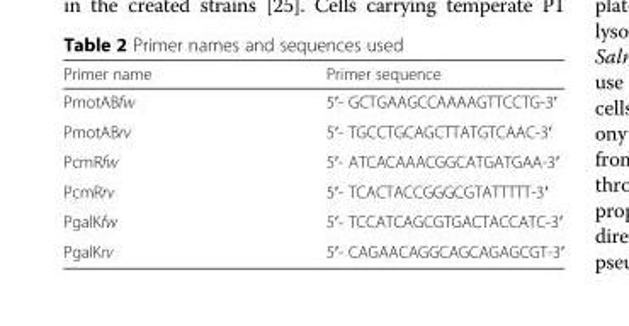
<table><thead><tr><td>Primer name</td><td>Primer sequence</td></tr></thead><tbody><tr><td>PmotABfw</td><td>5′- GCTGAAGCCAAAAGTTCCTG-3′</td></tr><tr><td>PmotABrv</td><td>5′- TGCCTGCAGCTTATGTCAAC-3′</td></tr><tr><td>PcmRfw</td><td>5′- ATCACAAACGGCATGATGAA-3′</td></tr><tr><td>PcmRrv</td><td>5′- TCACTACCGGGCGTATTTTT-3′</td></tr><tr><td>PgalKfw</td><td>5′- TCCATCAGCGTGACTACCATC-3′</td></tr><tr><td>PgalKrv</td><td>5′- CAGAACAGGCAGCAGAGCGT-3′</td></tr></tbody></table>